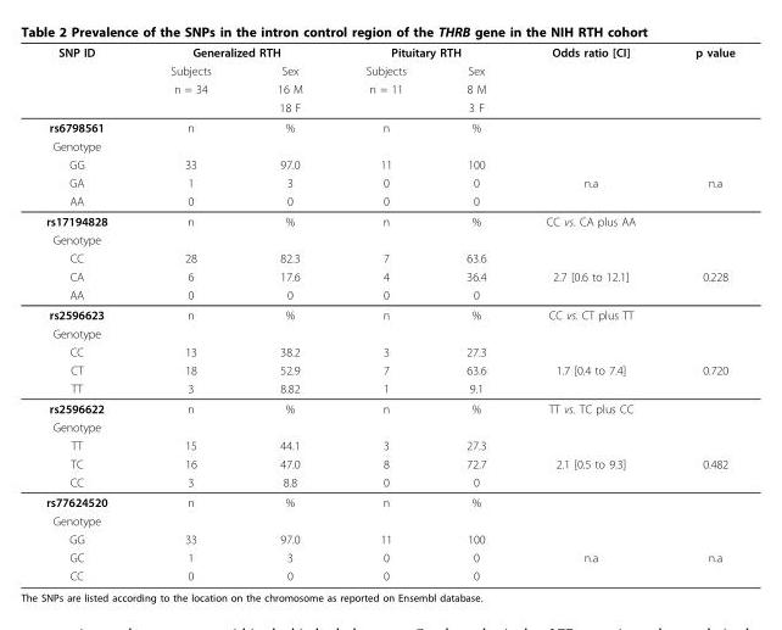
<table><thead><tr><td rowspan="4">SNP ID</td><td colspan="2">Generalized RTH</td><td colspan="2">Pituitary RTH</td><td rowspan="4">Odds ratio [CI]</td><td rowspan="4">p value</td></tr><tr><td rowspan="3">Subjects n = 34</td><td rowspan="3">Sex 16 M 18 F</td><td rowspan="3">Subjects n = 11</td><td rowspan="3">Sex 8 M 3 F</td></tr><tr></tr><tr></tr></thead><tbody><tr><td>rs6798561</td><td>n</td><td>%</td><td>n</td><td>%</td><td></td><td></td></tr><tr><td colspan="7">Genotype</td></tr><tr><td>GG</td><td>33</td><td>97.0</td><td>11</td><td>100</td><td></td><td></td></tr><tr><td>GA</td><td>1</td><td>3</td><td>0</td><td>0</td><td>n.a</td><td>n.a</td></tr><tr><td>AA</td><td>0</td><td>0</td><td>0</td><td>0</td><td></td><td></td></tr><tr><td>rs17194828</td><td>n</td><td>%</td><td>n</td><td>%</td><td>CC vs. CA plus AA</td><td></td></tr><tr><td colspan="7">Genotype</td></tr><tr><td>CC</td><td>28</td><td>82.3</td><td>7</td><td>63.6</td><td></td><td></td></tr><tr><td>CA</td><td>6</td><td>17.6</td><td>4</td><td>36.4</td><td>2.7 [0.6 to 12.1]</td><td>0.228</td></tr><tr><td>AA</td><td>0</td><td>0</td><td>0</td><td>0</td><td></td><td></td></tr><tr><td>rs2596623</td><td>n</td><td>%</td><td>n</td><td>%</td><td>CC vs. CT plus TT</td><td></td></tr><tr><td colspan="7">Genotype</td></tr><tr><td>CC</td><td>13</td><td>38.2</td><td>3</td><td>27.3</td><td></td><td></td></tr><tr><td>CT</td><td>18</td><td>52.9</td><td>7</td><td>63.6</td><td>1.7 [0.4 to 7.4]</td><td>0.720</td></tr><tr><td>TT</td><td>3</td><td>8.82</td><td>1</td><td>9.1</td><td></td><td></td></tr><tr><td>rs2596622</td><td>n</td><td>%</td><td>n</td><td>%</td><td>TT vs. TC plus CC</td><td></td></tr><tr><td colspan="7">Genotype</td></tr><tr><td>TT</td><td>15</td><td>44.1</td><td>3</td><td>27.3</td><td></td><td></td></tr><tr><td>TC</td><td>16</td><td>47.0</td><td>8</td><td>72.7</td><td>2.1 [0.5 to 9.3]</td><td>0.482</td></tr><tr><td>CC</td><td>3</td><td>8.8</td><td>0</td><td>0</td><td></td><td></td></tr><tr><td>rs77624520</td><td>n</td><td>%</td><td>n</td><td>%</td><td></td><td></td></tr><tr><td colspan="7">Genotype</td></tr><tr><td>GG</td><td>33</td><td>97.0</td><td>11</td><td>100</td><td></td><td></td></tr><tr><td>GC</td><td>1</td><td>3</td><td>0</td><td>0</td><td>n.a</td><td>n.a</td></tr><tr><td>CC</td><td>0</td><td>0</td><td>0</td><td>0</td><td></td><td></td></tr></tbody></table>